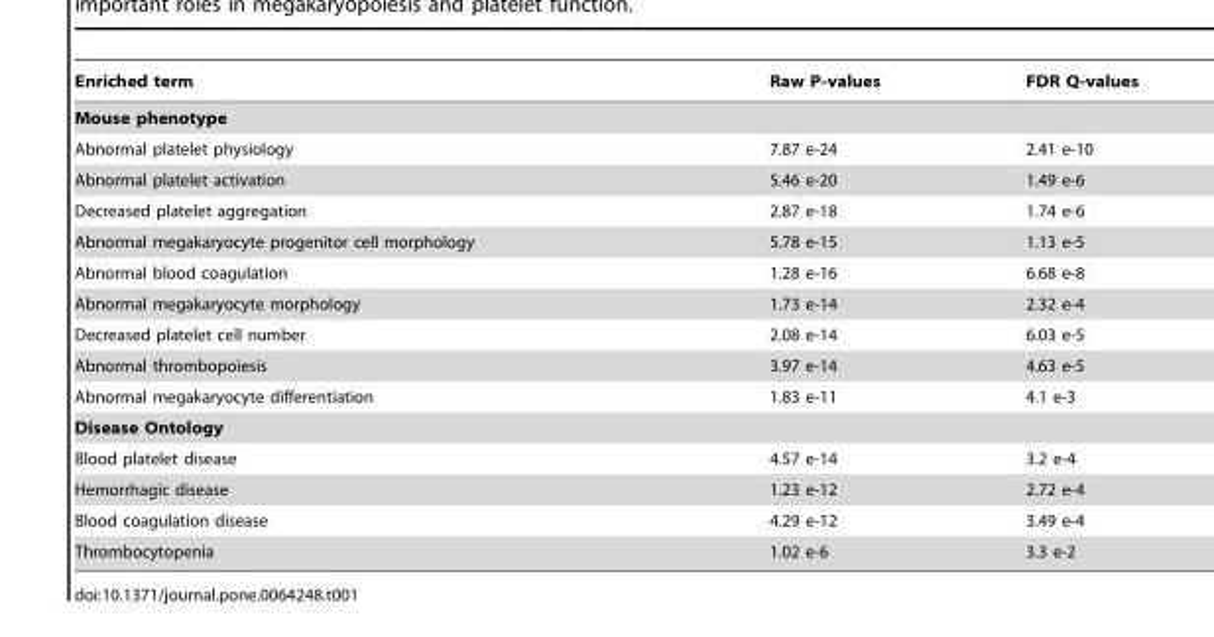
<table><thead><tr><td>Enriched term</td><td>Raw P-values</td><td>FDR Q-values</td></tr></thead><tbody><tr><td colspan="3">Mouse phenotype</td></tr><tr><td>Abnormal platelet physiology</td><td>7.87 e-24</td><td>2.41 e-10</td></tr><tr><td>Abnormal platelet activation</td><td>5.46 e-20</td><td>1.49 e-6</td></tr><tr><td>Decreased platelet aggregation</td><td>2.87 e-18</td><td>1.74 e-6</td></tr><tr><td>Abnormal megakaryocyte progenitor cell morphology</td><td>5.78 e-15</td><td>1.13 e-5</td></tr><tr><td>Abnormal blood coagulation</td><td>1.28 e-16</td><td>6.68 e-8</td></tr><tr><td>Abnormal megakaryocyte morphology</td><td>1.73 e-14</td><td>2.32 e-4</td></tr><tr><td>Decreased platelet cell number</td><td>2.08 e-14</td><td>6.03 e-5</td></tr><tr><td>Abnormal thrombopoiesis</td><td>3.97 e-14</td><td>4.63 e-5</td></tr><tr><td>Abnormal megakaryocyte differentiation</td><td>1.83 e-11</td><td>4.1 e-3</td></tr><tr><td colspan="3">Disease Ontology</td></tr><tr><td>Blood platelet disease</td><td>4.57 e-14</td><td>3.2 e-4</td></tr><tr><td>Hemorrhagic disease</td><td>1.23 e-12</td><td>2.72 e-4</td></tr><tr><td>Blood coagulation disease</td><td>4.29 e-12</td><td>3.49 e-4</td></tr><tr><td>Thrombocytopenia</td><td>1.02 e-6</td><td>3.3 e-2</td></tr></tbody></table>